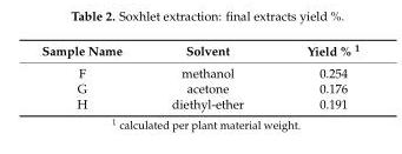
<table><thead><tr><td>Sample Name</td><td>Solvent</td><td>Yield % <sup>1</sup></td></tr></thead><tbody><tr><td>F</td><td>methanol</td><td>0.254</td></tr><tr><td>G</td><td>acetone</td><td>0.176</td></tr><tr><td>H</td><td>diethyl-ether</td><td>0.191</td></tr></tbody></table>